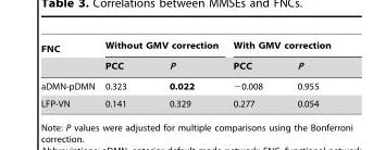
<table><thead><tr><td rowspan="2">FNC</td><td colspan="2">Without GMV correction</td><td colspan="2">With GMV correction</td></tr><tr><td>PCC</td><td>P</td><td>PCC</td><td>P</td></tr></thead><tbody><tr><td>aDMN-pDMN</td><td>0.323</td><td>0.022</td><td>−0.008</td><td>0.955</td></tr><tr><td>LFP-VN</td><td>0.141</td><td>0.329</td><td>0.277</td><td>0.054</td></tr></tbody></table>